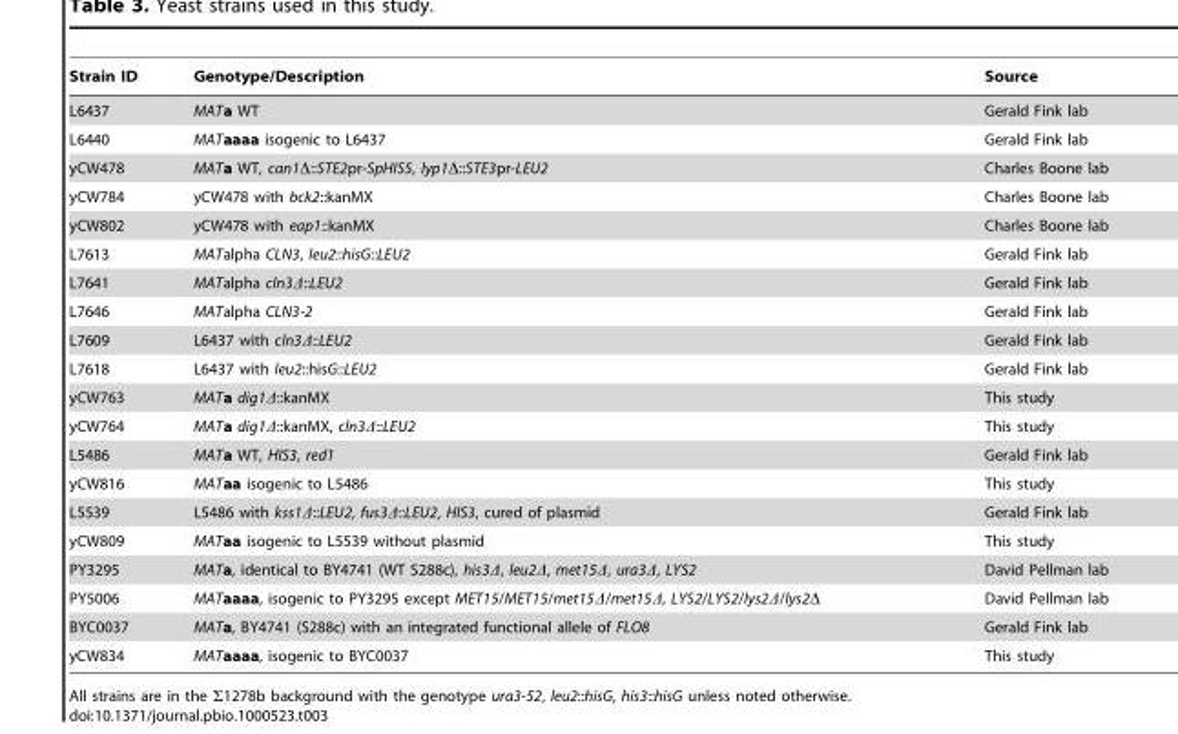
<table><thead><tr><td>Strain ID</td><td>Genotype/Description</td><td>Source</td></tr></thead><tbody><tr><td>L6437</td><td>MATa WT</td><td>Gerald Fink lab</td></tr><tr><td>L6440</td><td>MATaaaa isogenic to L6437</td><td>Gerald Fink lab</td></tr><tr><td>yCW478</td><td>MATa WT, can1Δ::STE2pr-SpHIS5, lyp1Δ::STE3pr-LEU2</td><td>Charles Boone lab</td></tr><tr><td>yCW784</td><td>yCW478 with bck2::kanMX</td><td>Charles Boone lab</td></tr><tr><td>yCW802</td><td>yCW478 with eap1::kanMX</td><td>Charles Boone lab</td></tr><tr><td>L7613</td><td>MATalpha CLN3, leu2::hisG::LEU2</td><td>Gerald Fink lab</td></tr><tr><td>L7641</td><td>MATalpha cln3Δ::LEU2</td><td>Gerald Fink lab</td></tr><tr><td>L7646</td><td>MATalpha CLN3-2</td><td>Gerald Fink lab</td></tr><tr><td>L7609</td><td>L6437 with cln3Δ::LEU2</td><td>Gerald Fink lab</td></tr><tr><td>L7618</td><td>L6437 with leu2::hisG::LEU2</td><td>Gerald Fink lab</td></tr><tr><td>yCW763</td><td>MATa dig1Δ::kanMX</td><td>This study</td></tr><tr><td>yCW764</td><td>MATa dig1Δ::kanMX, cln3Δ::LEU2</td><td>This study</td></tr><tr><td>L5486</td><td>MATa WT, HIS3, red1</td><td>Gerald Fink lab</td></tr><tr><td>yCW816</td><td>MATaa isogenic to L5486</td><td>This study</td></tr><tr><td>L5539</td><td>L5486 with kss1Δ::LEU2, fus3Δ::LEU2, HIS3, cured of plasmid</td><td>Gerald Fink lab</td></tr><tr><td>yCW809</td><td>MATaa isogenic to L5539 without plasmid</td><td>This study</td></tr><tr><td>PY3295</td><td>MATa, identical to BY4741 (WT S288c), his3Δ, leu2Δ, met15Δ, ura3Δ, LYS2</td><td>David Pellman lab</td></tr><tr><td>PY5006</td><td>MATaaaa, isogenic to PY3295 except MET15/MET15/met15Δ/met15Δ, LYS2/LYS2/lys2Δ/lys2Δ</td><td>David Pellman lab</td></tr><tr><td>BYC0037</td><td>MATa, BY4741 (S288c) with an integrated functional allele of FLO8</td><td>Gerald Fink lab</td></tr><tr><td>yCW834</td><td>MATaaaa, isogenic to BYC0037</td><td>This study</td></tr></tbody></table>